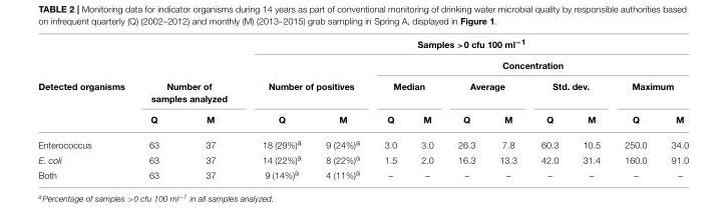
<table><thead><tr><td rowspan="4">Detected organisms</td><td rowspan="2"></td><td rowspan="2"></td><td colspan="10">Samples &gt;0 cfu 100 ml<sup>−1</sup></td></tr><tr><td></td><td></td><td colspan="8">Concentration</td></tr><tr><td colspan="2">Number of samples analyzed</td><td colspan="2">Number of positives</td><td colspan="2">Median</td><td colspan="2">Average</td><td colspan="2">Std. dev.</td><td colspan="2">Maximum</td></tr><tr><td>Q</td><td>M</td><td>Q</td><td>M</td><td>Q</td><td>M</td><td>Q</td><td>M</td><td>Q</td><td>M</td><td>Q</td><td>M</td></tr></thead><tbody><tr><td>Enterococcus</td><td>63</td><td>37</td><td>18 (29%)<sup>a</sup></td><td>9 (24%)<sup>a</sup></td><td>3.0</td><td>3.0</td><td>26.3</td><td>7.8</td><td>60.3</td><td>10.5</td><td>250.0</td><td>34.0</td></tr><tr><td>E. coli</td><td>63</td><td>37</td><td>14 (22%)<sup>a</sup></td><td>8 (22%)<sup>a</sup></td><td>1.5</td><td>2.0</td><td>16.3</td><td>13.3</td><td>42.0</td><td>31.4</td><td>160.0</td><td>91.0</td></tr><tr><td>Both</td><td>63</td><td>37</td><td>9 (14%)<sup>a</sup></td><td>4 (11%)<sup>a</sup></td><td>–</td><td>–</td><td>–</td><td>–</td><td>–</td><td>–</td><td>–</td><td>–</td></tr></tbody></table>